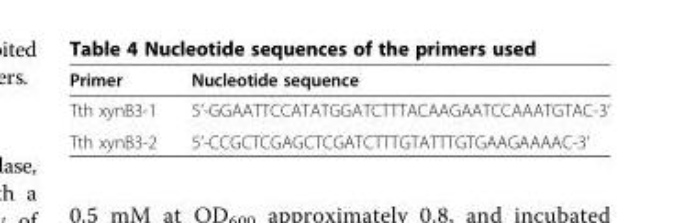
<table><thead><tr><td>Primer</td><td>Nucleotide sequence</td></tr></thead><tbody><tr><td>Tth xynB3-1</td><td>5’-GGAATTCCATATGGATCTTTACAAGAATCCAAATGTAC-3’</td></tr><tr><td>Tth xynB3-2</td><td>5’-CCGCTCGAGCTCGATCTTTGTATTTGTGAAGAAAAC-3’</td></tr></tbody></table>